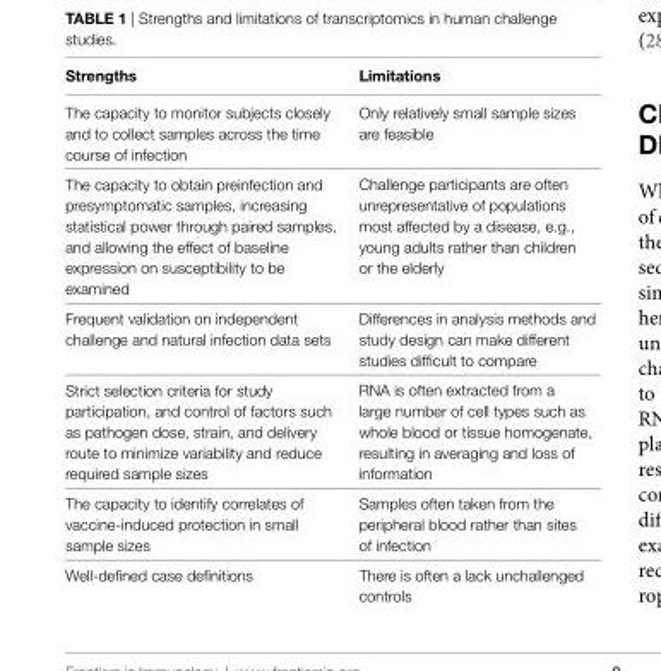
<table><thead><tr><td>Strengths</td><td>Limitations</td></tr></thead><tbody><tr><td>The capacity to monitor subjects closely and to collect samples across the time course of infection</td><td>Only relatively small sample sizes are feasible</td></tr><tr><td>The capacity to obtain preinfection and presymptomatic samples, increasing statistical power through paired samples, and allowing the effect of baseline expression on susceptibility to be examined</td><td>Challenge participants are often unrepresentative of populations most affected by a disease, e.g., young adults rather than children or the elderly</td></tr><tr><td>Frequent validation on independent challenge and natural infection data sets</td><td>Differences in analysis methods and study design can make different studies difficult to compare</td></tr><tr><td>Strict selection criteria for study participation, and control of factors such as pathogen dose, strain, and delivery route to minimize variability and reduce required sample sizes</td><td>RNA is often extracted from a large number of cell types such as whole blood or tissue homogenate, resulting in averaging and loss of information</td></tr><tr><td>The capacity to identify correlates of vaccine-induced protection in small sample sizes</td><td>Samples often taken from the peripheral blood rather than sites of infection</td></tr><tr><td>Well-defined case definitions</td><td>There is often a lack unchallenged controls</td></tr></tbody></table>